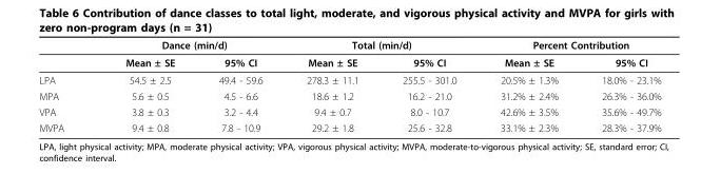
<table><thead><tr><td rowspan="2"></td><td colspan="2">Dance (min/d)</td><td colspan="2">Total (min/d)</td><td colspan="2">Percent Contribution</td></tr><tr><td>Mean ± SE</td><td>95% CI</td><td>Mean ± SE</td><td>95% CI</td><td>Mean ± SE</td><td>95% CI</td></tr></thead><tbody><tr><td>LPA</td><td>54.5 ± 2.5</td><td>49.4 - 59.6</td><td>278.3 ± 11.1</td><td>255.5 - 301.0</td><td>20.5% ± 1.3%</td><td>18.0% - 23.1%</td></tr><tr><td>MPA</td><td>5.6 ± 0.5</td><td>4.5 - 6.6</td><td>18.6 ± 1.2</td><td>16.2 - 21.0</td><td>31.2% ± 2.4%</td><td>26.3% - 36.0%</td></tr><tr><td>VPA</td><td>3.8 ± 0.3</td><td>3.2 - 4.4</td><td>9.4 ± 0.7</td><td>8.0 - 10.7</td><td>42.6% ± 3.5%</td><td>35.6% - 49.7%</td></tr><tr><td>MVPA</td><td>9.4 ± 0.8</td><td>7.8 - 10.9</td><td>29.2 ± 1.8</td><td>25.6 - 32.8</td><td>33.1% ± 2.3%</td><td>28.3% - 37.9%</td></tr></tbody></table>